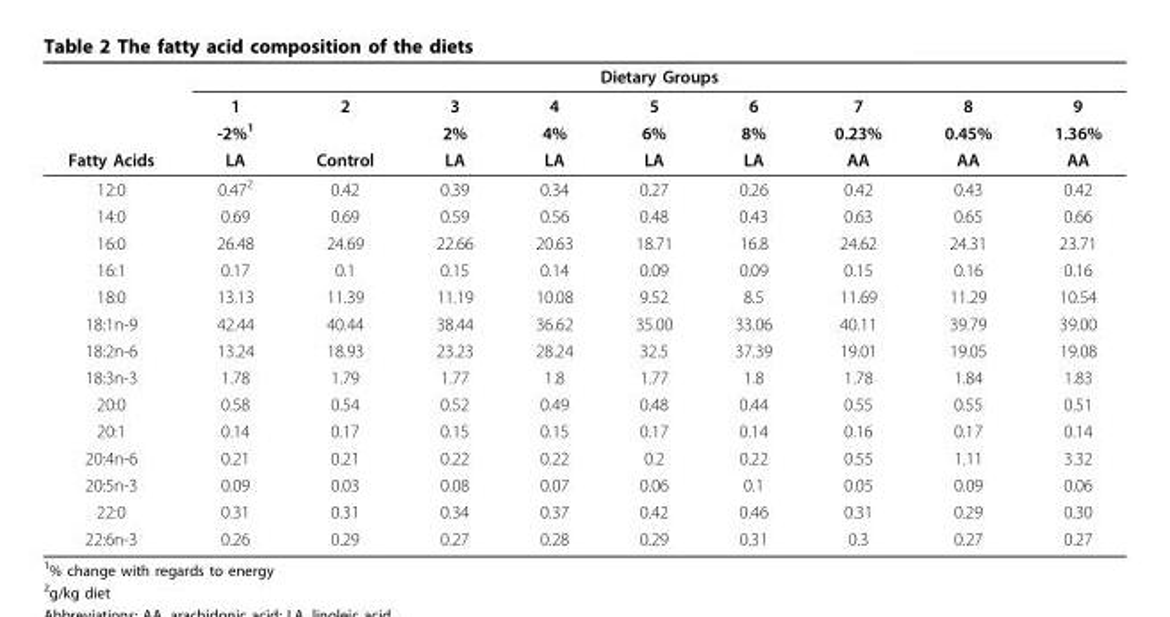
<table><thead><tr><td rowspan="4">Fatty Acids</td><td colspan="9">Dietary Groups</td></tr><tr><td rowspan="3">1 -2%<sup>1</sup> LA</td><td rowspan="3">2 Control</td><td rowspan="3">3 2% LA</td><td rowspan="3">4 4% LA</td><td rowspan="3">5 6% LA</td><td rowspan="3">6 8% LA</td><td rowspan="3">7 0.23% AA</td><td rowspan="3">8 0.45% AA</td><td rowspan="3">9 1.36% AA</td></tr><tr></tr><tr></tr></thead><tbody><tr><td>12:0</td><td>0.47<sup>2</sup></td><td>0.42</td><td>0.39</td><td>0.34</td><td>0.27</td><td>0.26</td><td>0.42</td><td>0.43</td><td>0.42</td></tr><tr><td>14:0</td><td>0.69</td><td>0.69</td><td>0.59</td><td>0.56</td><td>0.48</td><td>0.43</td><td>0.63</td><td>0.65</td><td>0.66</td></tr><tr><td>16:0</td><td>26.48</td><td>24.69</td><td>22.66</td><td>20.63</td><td>18.71</td><td>16.8</td><td>24.62</td><td>24.31</td><td>23.71</td></tr><tr><td>16:1</td><td>0.17</td><td>0.1</td><td>0.15</td><td>0.14</td><td>0.09</td><td>0.09</td><td>0.15</td><td>0.16</td><td>0.16</td></tr><tr><td>18:0</td><td>13.13</td><td>11.39</td><td>11.19</td><td>10.08</td><td>9.52</td><td>8.5</td><td>11.69</td><td>11.29</td><td>10.54</td></tr><tr><td>18:1n-9</td><td>42.44</td><td>40.44</td><td>38.44</td><td>36.62</td><td>35.00</td><td>33.06</td><td>40.11</td><td>39.79</td><td>39.00</td></tr><tr><td>18:2n-6</td><td>13.24</td><td>18.93</td><td>23.23</td><td>28.24</td><td>32.5</td><td>37.39</td><td>19.01</td><td>19.05</td><td>19.08</td></tr><tr><td>18:3n-3</td><td>1.78</td><td>1.79</td><td>1.77</td><td>1.8</td><td>1.77</td><td>1.8</td><td>1.78</td><td>1.84</td><td>1.83</td></tr><tr><td>20:0</td><td>0.58</td><td>0.54</td><td>0.52</td><td>0.49</td><td>0.48</td><td>0.44</td><td>0.55</td><td>0.55</td><td>0.51</td></tr><tr><td>20:1</td><td>0.14</td><td>0.17</td><td>0.15</td><td>0.15</td><td>0.17</td><td>0.14</td><td>0.16</td><td>0.17</td><td>0.14</td></tr><tr><td>20:4n-6</td><td>0.21</td><td>0.21</td><td>0.22</td><td>0.22</td><td>0.2</td><td>0.22</td><td>0.55</td><td>1.11</td><td>3.32</td></tr><tr><td>20:5n-3</td><td>0.09</td><td>0.03</td><td>0.08</td><td>0.07</td><td>0.06</td><td>0.1</td><td>0.05</td><td>0.09</td><td>0.06</td></tr><tr><td>22:0</td><td>0.31</td><td>0.31</td><td>0.34</td><td>0.37</td><td>0.42</td><td>0.46</td><td>0.31</td><td>0.29</td><td>0.30</td></tr><tr><td>22:6n-3</td><td>0.26</td><td>0.29</td><td>0.27</td><td>0.28</td><td>0.29</td><td>0.31</td><td>0.3</td><td>0.27</td><td>0.27</td></tr></tbody></table>